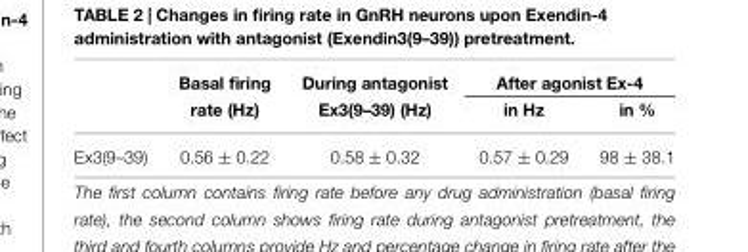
<table><thead><tr><td rowspan="2"></td><td rowspan="2">Basal firing rate (Hz)</td><td rowspan="2">During antagonist Ex3(9–39) (Hz)</td><td colspan="2">After agonist Ex-4</td></tr><tr><td>in Hz</td><td>in %</td></tr></thead><tbody><tr><td>Ex3(9–39)</td><td>0.56 ± 0.22</td><td>0.58 ± 0.32</td><td>0.57 ± 0.29</td><td>98 ± 38.1</td></tr></tbody></table>